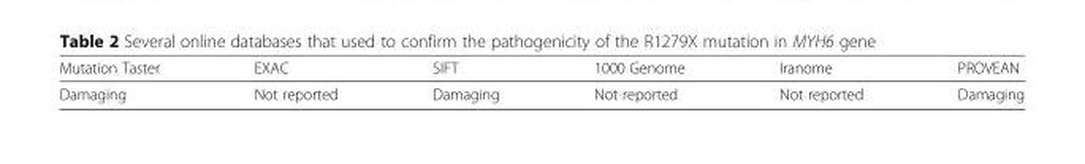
<table><thead><tr><td>Mutation Taster</td><td>EXAC</td><td>SIFT</td><td>1000 Genome</td><td>Iranome</td><td>PROVEAN</td></tr></thead><tbody><tr><td>Damaging</td><td>Not reported</td><td>Damaging</td><td>Not reported</td><td>Not reported</td><td>Damaging</td></tr></tbody></table>